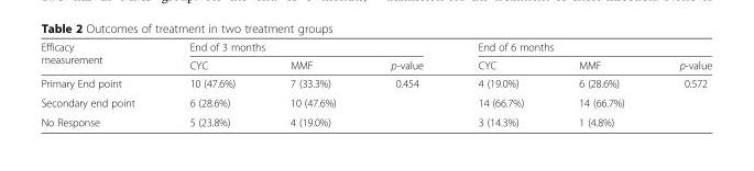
<table><thead><tr><td rowspan="2">Efficacy measurement</td><td colspan="3">End of 3 months</td><td colspan="3">End of 6 months</td></tr><tr><td>CYC</td><td>MMF</td><td>p-value</td><td>CYC</td><td>MMF</td><td>p-value</td></tr></thead><tbody><tr><td>Primary End point</td><td>10 (47.6%)</td><td>7 (33.3%)</td><td rowspan="3">0.454</td><td>4 (19.0%)</td><td>6 (28.6%)</td><td rowspan="3">0.572</td></tr><tr><td>Secondary end point</td><td>6 (28.6%)</td><td>10 (47.6%)</td><td>14 (66.7%)</td><td>14 (66.7%)</td></tr><tr><td>No Response</td><td>5 (23.8%)</td><td>4 (19.0%)</td><td>3 (14.3%)</td><td>1 (4.8%)</td></tr></tbody></table>